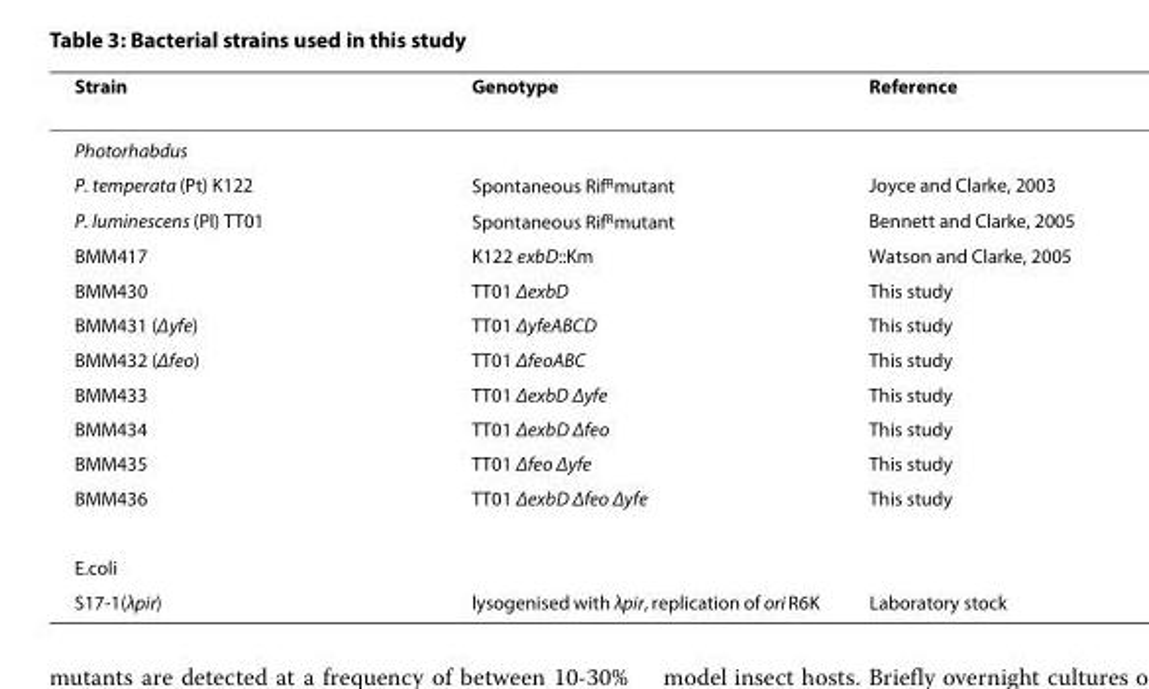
<table><thead><tr><td>Strain</td><td>Genotype</td><td>Reference</td></tr></thead><tbody><tr><td colspan="3">Photorhabdus</td></tr><tr><td>P. temperata (Pt) K122</td><td>Spontaneous Rif<sup>R</sup>mutant</td><td>Joyce and Clarke, 2003</td></tr><tr><td>P. luminescens (Pl) TT01</td><td>Spontaneous Rif<sup>R</sup>mutant</td><td>Bennett and Clarke, 2005</td></tr><tr><td>BMM417</td><td>K122 exbD::Km</td><td>Watson and Clarke, 2005</td></tr><tr><td>BMM430</td><td>TT01 ΔexbD</td><td>This study</td></tr><tr><td>BMM431 (Δyfe)</td><td>TT01 ΔyfeABCD</td><td>This study</td></tr><tr><td>BMM432 (Δfeo)</td><td>TT01 ΔfeoABC</td><td>This study</td></tr><tr><td>BMM433</td><td>TT01 ΔexbD Δyfe</td><td>This study</td></tr><tr><td>BMM434</td><td>TT01 ΔexbD Δfeo</td><td>This study</td></tr><tr><td>BMM435</td><td>TT01 Δfeo Δyfe</td><td>This study</td></tr><tr><td>BMM436</td><td>TT01 ΔexbD Δfeo Δyfe</td><td>This study</td></tr><tr><td colspan="3">E.coli</td></tr><tr><td>S17-1(λpir)</td><td>lysogenised with λpir, replication of ori R6K</td><td>Laboratory stock</td></tr></tbody></table>